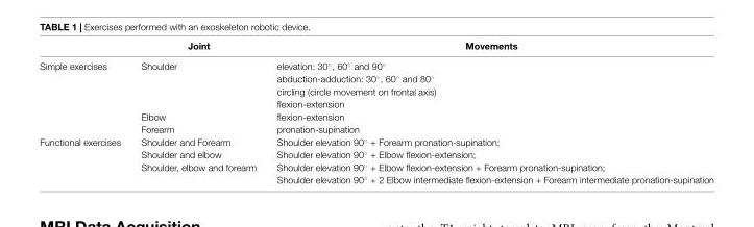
<table><thead><tr><td></td><td>Joint</td><td>Movements</td></tr></thead><tbody><tr><td rowspan="6">Simple exercises</td><td>Shoulder</td><td>elevation: 30◦, 60◦ and 90◦</td></tr><tr><td></td><td>abduction-adduction: 30◦, 60◦ and 80◦</td></tr><tr><td></td><td>circling (circle movement on frontal axis)</td></tr><tr><td></td><td>flexion-extension</td></tr><tr><td>Elbow</td><td>flexion-extension</td></tr><tr><td>Forearm</td><td>pronation-supination</td></tr><tr><td rowspan="4">Functional exercises</td><td>Shoulder and Forearm</td><td>Shoulder elevation 90◦ + Forearm pronation-supination;</td></tr><tr><td>Shoulder and elbow</td><td>Shoulder elevation 90◦ + Elbow flexion-extension;</td></tr><tr><td>Shoulder, elbow and forearm</td><td>Shoulder elevation 90◦ + Elbow flexion-extension + Forearm pronation-supination;</td></tr><tr><td></td><td>Shoulder elevation 90◦ + 2 Elbow intermediate flexion-extension + Forearm intermediate pronation-supination</td></tr></tbody></table>